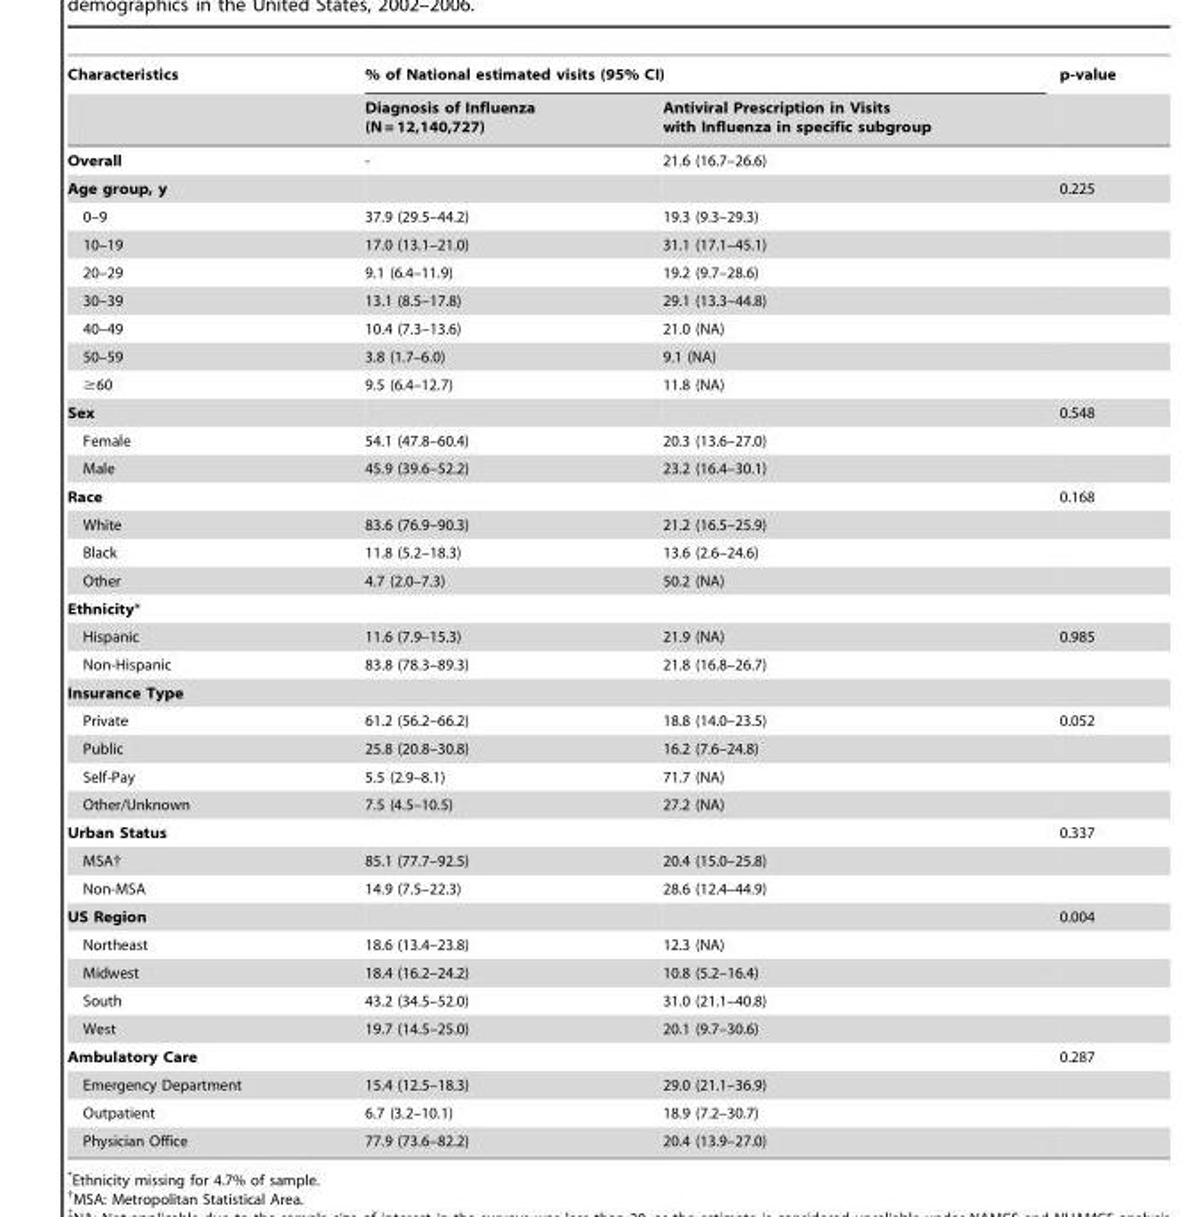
<table><thead><tr><td rowspan="2">Characteristics</td><td colspan="2">% of National estimated visits (95% CI)</td><td rowspan="2">p-value</td></tr><tr><td>Diagnosis of Influenza (N = 12,140,727)</td><td>Antiviral Prescription in Visits with Influenza in specific subgroup</td></tr></thead><tbody><tr><td>Overall</td><td>-</td><td>21.6 (16.7–26.6)</td><td></td></tr><tr><td>Age group, y</td><td></td><td></td><td>0.225</td></tr><tr><td>0–9</td><td>37.9 (29.5–44.2)</td><td>19.3 (9.3–29.3)</td><td></td></tr><tr><td>10–19</td><td>17.0 (13.1–21.0)</td><td>31.1 (17.1–45.1)</td><td></td></tr><tr><td>20–29</td><td>9.1 (6.4–11.9)</td><td>19.2 (9.7–28.6)</td><td></td></tr><tr><td>30–39</td><td>13.1 (8.5–17.8)</td><td>29.1 (13.3–44.8)</td><td></td></tr><tr><td>40–49</td><td>10.4 (7.3–13.6)</td><td>21.0 (NA)</td><td></td></tr><tr><td>50–59</td><td>3.8 (1.7–6.0)</td><td>9.1 (NA)</td><td></td></tr><tr><td>≥60</td><td>9.5 (6.4–12.7)</td><td>11.8 (NA)</td><td></td></tr><tr><td>Sex</td><td></td><td></td><td>0.548</td></tr><tr><td>Female</td><td>54.1 (47.8–60.4)</td><td>20.3 (13.6–27.0)</td><td></td></tr><tr><td>Male</td><td>45.9 (39.6–52.2)</td><td>23.2 (16.4–30.1)</td><td></td></tr><tr><td>Race</td><td></td><td></td><td>0.168</td></tr><tr><td>White</td><td>83.6 (76.9–90.3)</td><td>21.2 (16.5–25.9)</td><td></td></tr><tr><td>Black</td><td>11.8 (5.2–18.3)</td><td>13.6 (2.6–24.6)</td><td></td></tr><tr><td>Other</td><td>4.7 (2.0–7.3)</td><td>50.2 (NA)</td><td></td></tr><tr><td colspan="4">Ethnicity*</td></tr><tr><td>Hispanic</td><td>11.6 (7.9–15.3)</td><td>21.9 (NA)</td><td>0.985</td></tr><tr><td>Non-Hispanic</td><td>83.8 (78.3–89.3)</td><td>21.8 (16.8–26.7)</td><td></td></tr><tr><td colspan="4">Insurance Type</td></tr><tr><td>Private</td><td>61.2 (56.2–66.2)</td><td>18.8 (14.0–23.5)</td><td>0.052</td></tr><tr><td>Public</td><td>25.8 (20.8–30.8)</td><td>16.2 (7.6–24.8)</td><td></td></tr><tr><td>Self-Pay</td><td>5.5 (2.9–8.1)</td><td>71.7 (NA)</td><td></td></tr><tr><td>Other/Unknown</td><td>7.5 (4.5–10.5)</td><td>27.2 (NA)</td><td></td></tr><tr><td>Urban Status</td><td></td><td></td><td>0.337</td></tr><tr><td>MSA†</td><td>85.1 (77.7–92.5)</td><td>20.4 (15.0–25.8)</td><td></td></tr><tr><td>Non-MSA</td><td>14.9 (7.5–22.3)</td><td>28.6 (12.4–44.9)</td><td></td></tr><tr><td>US Region</td><td></td><td></td><td>0.004</td></tr><tr><td>Northeast</td><td>18.6 (13.4–23.8)</td><td>12.3 (NA)</td><td></td></tr><tr><td>Midwest</td><td>18.4 (16.2–24.2)</td><td>10.8 (5.2–16.4)</td><td></td></tr><tr><td>South</td><td>43.2 (34.5–52.0)</td><td>31.0 (21.1–40.8)</td><td></td></tr><tr><td>West</td><td>19.7 (14.5–25.0)</td><td>20.1 (9.7–30.6)</td><td></td></tr><tr><td>Ambulatory Care</td><td></td><td></td><td>0.287</td></tr><tr><td>Emergency Department</td><td>15.4 (12.5–18.3)</td><td>29.0 (21.1–36.9)</td><td></td></tr><tr><td>Outpatient</td><td>6.7 (3.2–10.1)</td><td>18.9 (7.2–30.7)</td><td></td></tr><tr><td>Physician Office</td><td>77.9 (73.6–82.2)</td><td>20.4 (13.9–27.0)</td><td></td></tr></tbody></table>